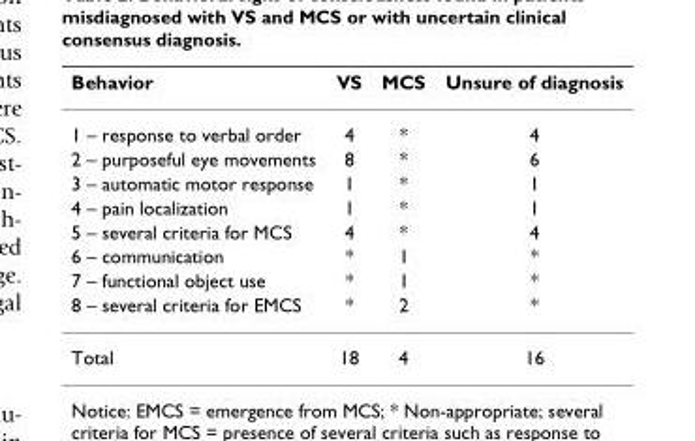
<table><thead><tr><td>Behavior</td><td>VS</td><td>MCS</td><td>Unsure of diagnosis</td></tr></thead><tbody><tr><td>1 – response to verbal order</td><td>4</td><td>*</td><td>4</td></tr><tr><td>2 – purposeful eye movements</td><td>8</td><td>*</td><td>6</td></tr><tr><td>3 – automatic motor response</td><td>1</td><td>*</td><td>1</td></tr><tr><td>4 – pain localization</td><td>1</td><td>*</td><td>1</td></tr><tr><td>5 – several criteria for MCS</td><td>4</td><td>*</td><td>4</td></tr><tr><td>6 – communication</td><td>*</td><td>1</td><td>*</td></tr><tr><td>7 – functional object use</td><td>*</td><td>1</td><td>*</td></tr><tr><td>8 – several criteria for EMCS</td><td>*</td><td>2</td><td>*</td></tr><tr><td>Total</td><td>18</td><td>4</td><td>16</td></tr></tbody></table>